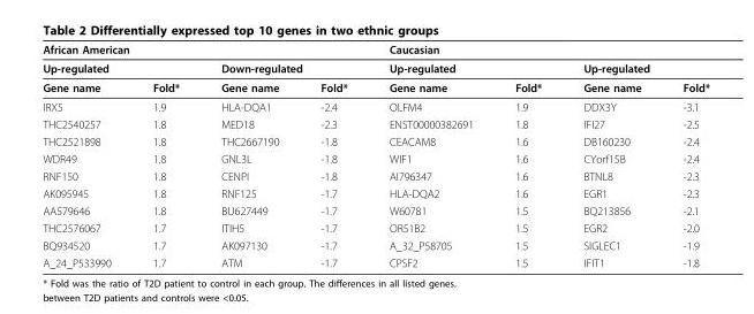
<table><thead><tr><td colspan="4">African American</td><td colspan="4">Caucasian</td></tr><tr><td colspan="2">Up-regulated</td><td colspan="2">Down-regulated</td><td colspan="2">Up-regulated</td><td colspan="2">Up-regulated</td></tr><tr><td>Gene name</td><td>Fold*</td><td>Gene name</td><td>Fold*</td><td>Gene name</td><td>Fold*</td><td>Gene name</td><td>Fold*</td></tr></thead><tbody><tr><td>IRX5</td><td>1.9</td><td>HLA-DQA1</td><td>-2.4</td><td>OLFM4</td><td>1.9</td><td>DDX3Y</td><td>-3.1</td></tr><tr><td>THC2540257</td><td>1.8</td><td>MED18</td><td>-2.3</td><td>ENST00000382691</td><td>1.8</td><td>IFI27</td><td>-2.5</td></tr><tr><td>THC2521898</td><td>1.8</td><td>THC2667190</td><td>-1.8</td><td>CEACAM8</td><td>1.6</td><td>DB160230</td><td>-2.4</td></tr><tr><td>WDR49</td><td>1.8</td><td>GNL3L</td><td>-1.8</td><td>WIF1</td><td>1.6</td><td>CYorf15B</td><td>-2.4</td></tr><tr><td>RNF150</td><td>1.8</td><td>CENPI</td><td>-1.8</td><td>AI796347</td><td>1.6</td><td>BTNL8</td><td>-2.3</td></tr><tr><td>AK095945</td><td>1.8</td><td>RNF125</td><td>-1.7</td><td>HLA-DQA2</td><td>1.6</td><td>EGR1</td><td>-2.3</td></tr><tr><td>AA579646</td><td>1.8</td><td>BU627449</td><td>-1.7</td><td>W60781</td><td>1.5</td><td>BQ213856</td><td>-2.1</td></tr><tr><td>THC2576067</td><td>1.7</td><td>ITIH5</td><td>-1.7</td><td>OR51B2</td><td>1.5</td><td>EGR2</td><td>-2.0</td></tr><tr><td>BQ934520</td><td>1.7</td><td>AK097130</td><td>-1.7</td><td>A_32_P58705</td><td>1.5</td><td>SIGLEC1</td><td>-1.9</td></tr><tr><td>A_24_P533990</td><td>1.7</td><td>ATM</td><td>-1.7</td><td>CPSF2</td><td>1.5</td><td>IFIT1</td><td>-1.8</td></tr></tbody></table>